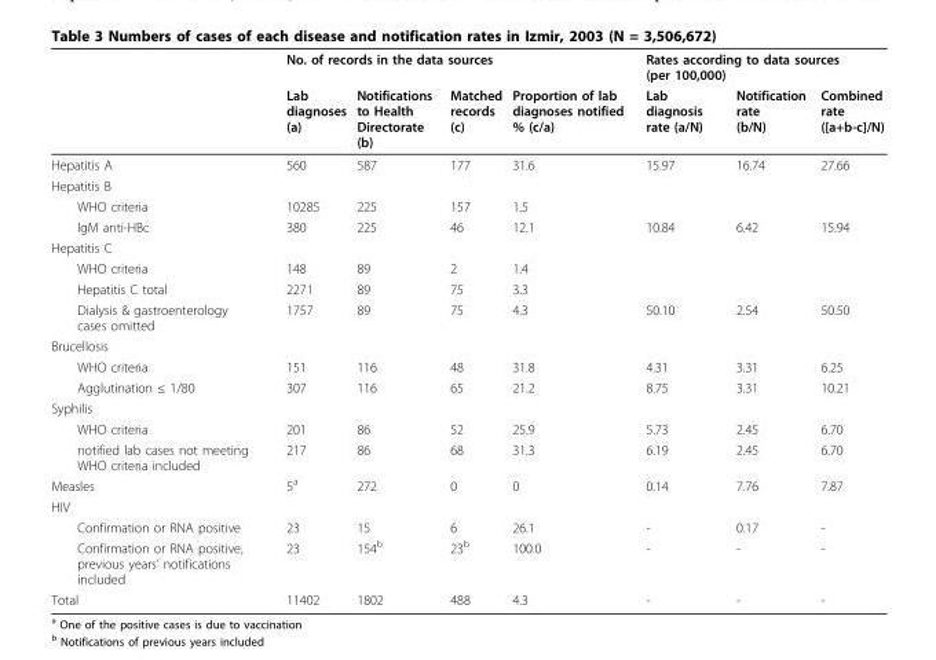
<table><thead><tr><td rowspan="2"></td><td colspan="3">No. of records in the data sources</td><td rowspan="2">Proportion of lab diagnoses notified % (c/a)</td><td colspan="3">Rates according to data sources (per 100,000)</td></tr><tr><td>Lab diagnoses (a)</td><td>Notifications to Health Directorate (b)</td><td>Matched records (c)</td><td>Lab diagnosis rate (a/N)</td><td>Notification rate (b/N)</td><td>Combined rate ([a+b-c]/N)</td></tr></thead><tbody><tr><td>Hepatitis A</td><td>560</td><td>587</td><td>177</td><td>31.6</td><td>15.97</td><td>16.74</td><td>27.66</td></tr><tr><td colspan="8">Hepatitis B</td></tr><tr><td>WHO criteria</td><td>10285</td><td>225</td><td>157</td><td>1.5</td><td></td><td></td><td></td></tr><tr><td>IgM anti-HBc</td><td>380</td><td>225</td><td>46</td><td>12.1</td><td>10.84</td><td>6.42</td><td>15.94</td></tr><tr><td colspan="8">Hepatitis C</td></tr><tr><td>WHO criteria</td><td>148</td><td>89</td><td>2</td><td>1.4</td><td></td><td></td><td></td></tr><tr><td>Hepatitis C total</td><td>2271</td><td>89</td><td>75</td><td>3.3</td><td></td><td></td><td></td></tr><tr><td>Dialysis &amp; gastroenterology cases omitted</td><td>1757</td><td>89</td><td>75</td><td>4.3</td><td>50.10</td><td>2.54</td><td>50.50</td></tr><tr><td colspan="8">Brucellosis</td></tr><tr><td>WHO criteria</td><td>151</td><td>116</td><td>48</td><td>31.8</td><td>4.31</td><td>3.31</td><td>6.25</td></tr><tr><td>Agglutination ≤ 1/80</td><td>307</td><td>116</td><td>65</td><td>21.2</td><td>8.75</td><td>3.31</td><td>10.21</td></tr><tr><td colspan="8">Syphilis</td></tr><tr><td>WHO criteria</td><td>201</td><td>86</td><td>52</td><td>25.9</td><td>5.73</td><td>2.45</td><td>6.70</td></tr><tr><td>notified lab cases not meeting WHO criteria included</td><td>217</td><td>86</td><td>68</td><td>31.3</td><td>6.19</td><td>2.45</td><td>6.70</td></tr><tr><td>Measles</td><td>5<sup>a</sup></td><td>272</td><td>0</td><td>0</td><td>0.14</td><td>7.76</td><td>7.87</td></tr><tr><td colspan="8">HIV</td></tr><tr><td>Confirmation or RNA positive</td><td>23</td><td>15</td><td>6</td><td>26.1</td><td>-</td><td>0.17</td><td>-</td></tr><tr><td>Confirmation or RNA positive, previous years’ notifications included</td><td>23</td><td>154<sup>b</sup></td><td>23<sup>b</sup></td><td>100.0</td><td>-</td><td>-</td><td>-</td></tr><tr><td>Total</td><td>11402</td><td>1802</td><td>488</td><td>4.3</td><td>-</td><td>-</td><td>-</td></tr></tbody></table>